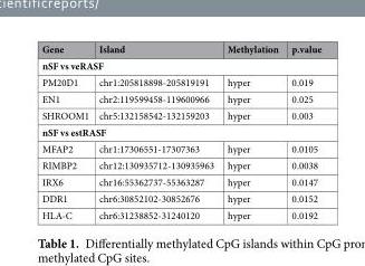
<table><thead><tr><td>Gene</td><td>Island</td><td>Methylation</td><td>p.value</td></tr></thead><tbody><tr><td colspan="4">nSF vs veRASF</td></tr><tr><td>PM20D1</td><td>chr1:205818898-205819191</td><td>hyper</td><td>0.019</td></tr><tr><td>EN1</td><td>chr2:119599458-119600966</td><td>hyper</td><td>0.025</td></tr><tr><td>SHROOM1</td><td>chr5:132158542-132159203</td><td>hyper</td><td>0.003</td></tr><tr><td colspan="4">nSF vs estRASF</td></tr><tr><td>MFAP2</td><td>chr1:17306551-17307363</td><td>hyper</td><td>0.0105</td></tr><tr><td>RIMBP2</td><td>chr12:130935712-130935963</td><td>hyper</td><td>0.0038</td></tr><tr><td>IRX6</td><td>chr16:55362737-55363287</td><td>hyper</td><td>0.0147</td></tr><tr><td>DDR1</td><td>chr6:30852102-30852676</td><td>hyper</td><td>0.0152</td></tr><tr><td>HLA-C</td><td>chr6:31238852-31240120</td><td>hyper</td><td>0.0192</td></tr></tbody></table>